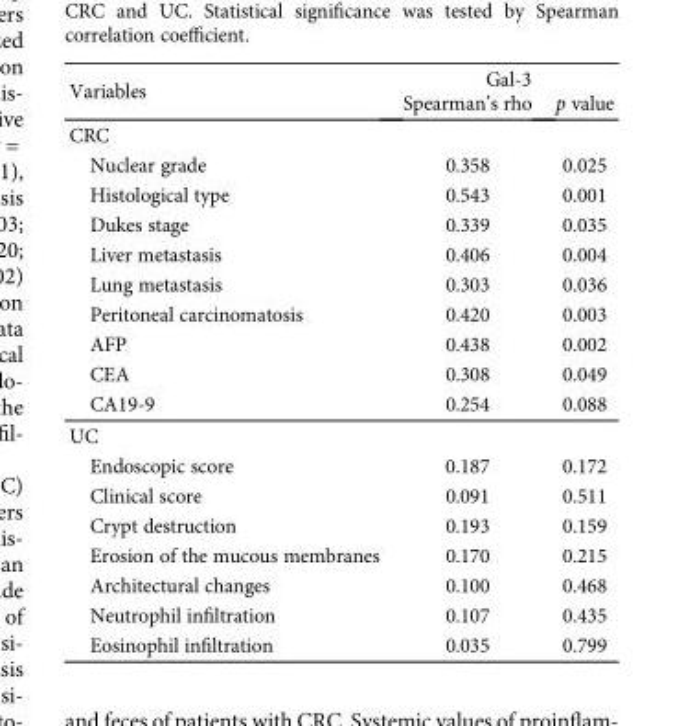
<table><thead><tr><td rowspan="2">Variables</td><td colspan="2">Gal-3</td></tr><tr><td>Spearman’s rho</td><td>p value</td></tr></thead><tbody><tr><td colspan="3">CRC</td></tr><tr><td>Nuclear grade</td><td>0.358</td><td>0.025</td></tr><tr><td>Histological type</td><td>0.543</td><td>0.001</td></tr><tr><td>Dukes stage</td><td>0.339</td><td>0.035</td></tr><tr><td>Liver metastasis</td><td>0.406</td><td>0.004</td></tr><tr><td>Lung metastasis</td><td>0.303</td><td>0.036</td></tr><tr><td>Peritoneal carcinomatosis</td><td>0.420</td><td>0.003</td></tr><tr><td>AFP</td><td>0.438</td><td>0.002</td></tr><tr><td>CEA</td><td>0.308</td><td>0.049</td></tr><tr><td>CA19-9</td><td>0.254</td><td>0.088</td></tr><tr><td colspan="3">UC</td></tr><tr><td>Endoscopic score</td><td>0.187</td><td>0.172</td></tr><tr><td>Clinical score</td><td>0.091</td><td>0.511</td></tr><tr><td>Crypt destruction</td><td>0.193</td><td>0.159</td></tr><tr><td>Erosion of the mucous membranes</td><td>0.170</td><td>0.215</td></tr><tr><td>Architectural changes</td><td>0.100</td><td>0.468</td></tr><tr><td>Neutrophil infiltration</td><td>0.107</td><td>0.435</td></tr><tr><td>Eosinophil infiltration</td><td>0.035</td><td>0.799</td></tr></tbody></table>